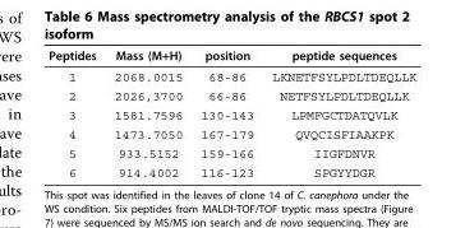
<table><thead><tr><td>Peptides</td><td>Mass (M+H)</td><td>position</td><td>peptide sequences</td></tr></thead><tbody><tr><td>1</td><td>2068.0015</td><td>68-86</td><td>LKNETFSYLPDLTDEQLLK</td></tr><tr><td>2</td><td>2026,3700</td><td>66-86</td><td>NETFSYLPDLTDEQLLK</td></tr><tr><td>3</td><td>1581.7596</td><td>130-143</td><td>LPMFGCTDATQVLK</td></tr><tr><td>4</td><td>1473.7050</td><td>167-179</td><td>QVQCISFIAAKPK</td></tr><tr><td>5</td><td>933.5152</td><td>159-166</td><td>IIGFDNVR</td></tr><tr><td>6</td><td>914.4002</td><td>116-123</td><td>SPGYYDGR</td></tr></tbody></table>